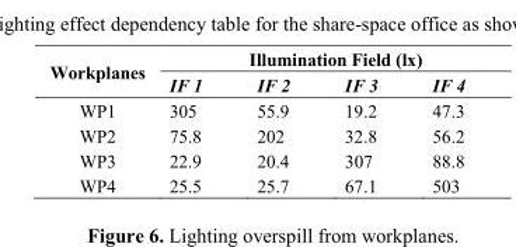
<table><thead><tr><td rowspan="2">Workplanes</td><td colspan="4">Illumination Field (lx)</td></tr><tr><td>IF 1</td><td>IF 2</td><td>IF 3</td><td>IF 4</td></tr></thead><tbody><tr><td>WP1</td><td>305</td><td>55.9</td><td>19.2</td><td>47.3</td></tr><tr><td>WP2</td><td>75.8</td><td>202</td><td>32.8</td><td>56.2</td></tr><tr><td>WP3</td><td>22.9</td><td>20.4</td><td>307</td><td>88.8</td></tr><tr><td>WP4</td><td>25.5</td><td>25.7</td><td>67.1</td><td>503</td></tr></tbody></table>